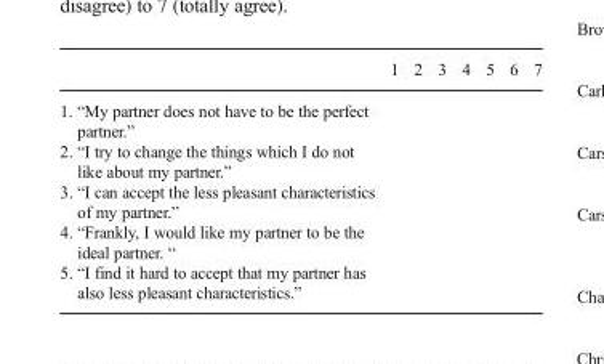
<table><thead><tr><td></td><td>1</td><td>2</td><td>3</td><td>4</td><td>5</td><td>6</td><td>7</td></tr></thead><tbody><tr><td colspan="8">1. “My partner does not have to be the perfect partner.”</td></tr><tr><td colspan="8">2. “I try to change the things which I do not like about my partner.”</td></tr><tr><td colspan="8">3. “I can accept the less pleasant characteristics of my partner.”</td></tr><tr><td colspan="8">4. “Frankly, I would like my partner to be the ideal partner. “</td></tr><tr><td>5. “I find it hard to accept that my partner has also less pleasant characteristics.”</td><td></td><td></td><td></td><td></td><td></td><td></td><td></td></tr></tbody></table>